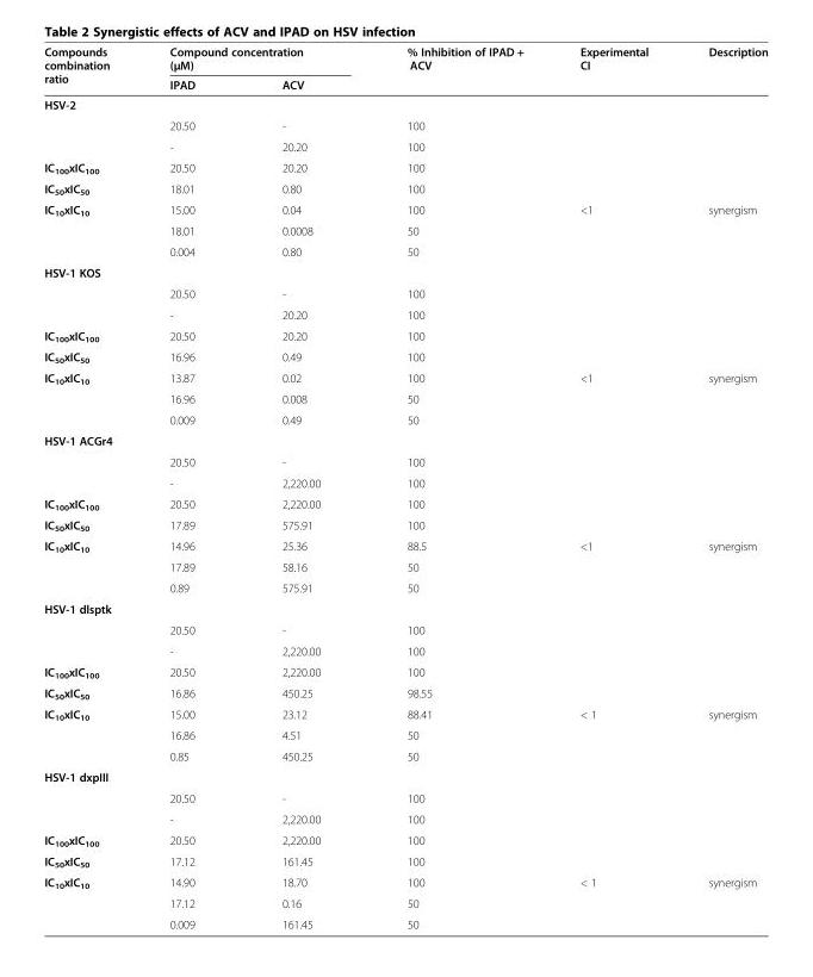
<table><thead><tr><td rowspan="2">Compounds combination ratio</td><td colspan="2">Compound concentration (μM)</td><td rowspan="2">% Inhibition of IPAD + ACV</td><td rowspan="2">Experimental CI</td><td rowspan="2">Description</td></tr><tr><td>IPAD</td><td>ACV</td></tr></thead><tbody><tr><td colspan="6">HSV-2</td></tr><tr><td></td><td>20.50</td><td>-</td><td>100</td><td></td><td></td></tr><tr><td></td><td>-</td><td>20.20</td><td>100</td><td></td><td></td></tr><tr><td>IC<sub>100</sub>xIC<sub>100</sub></td><td>20.50</td><td>20.20</td><td>100</td><td></td><td></td></tr><tr><td>IC<sub>50</sub>xIC<sub>50</sub></td><td>18.01</td><td>0.80</td><td>100</td><td></td><td></td></tr><tr><td rowspan="3">IC<sub>10</sub>xIC<sub>10</sub></td><td>15.00</td><td>0.04</td><td>100</td><td>&lt;1</td><td>synergism</td></tr><tr><td>18.01</td><td>0.0008</td><td>50</td><td></td><td></td></tr><tr><td>0.004</td><td>0.80</td><td>50</td><td></td><td></td></tr><tr><td colspan="6">HSV-1 KOS</td></tr><tr><td></td><td>20.50</td><td>-</td><td>100</td><td></td><td></td></tr><tr><td></td><td>-</td><td>20.20</td><td>100</td><td></td><td></td></tr><tr><td>IC<sub>100</sub>xIC<sub>100</sub></td><td>20.50</td><td>20.20</td><td>100</td><td></td><td></td></tr><tr><td>IC<sub>50</sub>xIC<sub>50</sub></td><td>16.96</td><td>0.49</td><td>100</td><td></td><td></td></tr><tr><td rowspan="3">IC<sub>10</sub>xIC<sub>10</sub></td><td>13.87</td><td>0.02</td><td>100</td><td>&lt;1</td><td>synergism</td></tr><tr><td>16.96</td><td>0.008</td><td>50</td><td></td><td></td></tr><tr><td>0.009</td><td>0.49</td><td>50</td><td></td><td></td></tr><tr><td colspan="6">HSV-1 ACGr4</td></tr><tr><td></td><td>20.50</td><td>-</td><td>100</td><td></td><td></td></tr><tr><td></td><td>-</td><td>2,220.00</td><td>100</td><td></td><td></td></tr><tr><td>IC<sub>100</sub>xIC<sub>100</sub></td><td>20.50</td><td>2,220.00</td><td>100</td><td></td><td></td></tr><tr><td>IC<sub>50</sub>xIC<sub>50</sub></td><td>17.89</td><td>575.91</td><td>100</td><td></td><td></td></tr><tr><td rowspan="3">IC<sub>10</sub>xIC<sub>10</sub></td><td>14.96</td><td>25.36</td><td>88.5</td><td>&lt;1</td><td>synergism</td></tr><tr><td>17.89</td><td>58.16</td><td>50</td><td></td><td></td></tr><tr><td>0.89</td><td>575.91</td><td>50</td><td></td><td></td></tr><tr><td colspan="6">HSV-1 dlsptk</td></tr><tr><td></td><td>20.50</td><td>-</td><td>100</td><td></td><td></td></tr><tr><td></td><td>-</td><td>2,220.00</td><td>100</td><td></td><td></td></tr><tr><td>IC<sub>100</sub>xIC<sub>100</sub></td><td>20.50</td><td>2,220.00</td><td>100</td><td></td><td></td></tr><tr><td>IC<sub>50</sub>xIC<sub>50</sub></td><td>16.86</td><td>450.25</td><td>98.55</td><td></td><td></td></tr><tr><td rowspan="3">IC<sub>10</sub>xIC<sub>10</sub></td><td>15.00</td><td>23.12</td><td>88.41</td><td>&lt; 1</td><td>synergism</td></tr><tr><td>16.86</td><td>4.51</td><td>50</td><td></td><td></td></tr><tr><td>0.85</td><td>450.25</td><td>50</td><td></td><td></td></tr><tr><td colspan="6">HSV-1 dxpIII</td></tr><tr><td></td><td>20.50</td><td>-</td><td>100</td><td></td><td></td></tr><tr><td></td><td>-</td><td>2,220.00</td><td>100</td><td></td><td></td></tr><tr><td>IC<sub>100</sub>xIC<sub>100</sub></td><td>20.50</td><td>2,220.00</td><td>100</td><td></td><td></td></tr><tr><td>IC<sub>50</sub>xIC<sub>50</sub></td><td>17.12</td><td>161.45</td><td>100</td><td></td><td></td></tr><tr><td rowspan="3">IC<sub>10</sub>xIC<sub>10</sub></td><td>14.90</td><td>18.70</td><td>100</td><td>&lt; 1</td><td>synergism</td></tr><tr><td>17.12</td><td>0.16</td><td>50</td><td></td><td></td></tr><tr><td>0.009</td><td>161.45</td><td>50</td><td></td><td></td></tr></tbody></table>